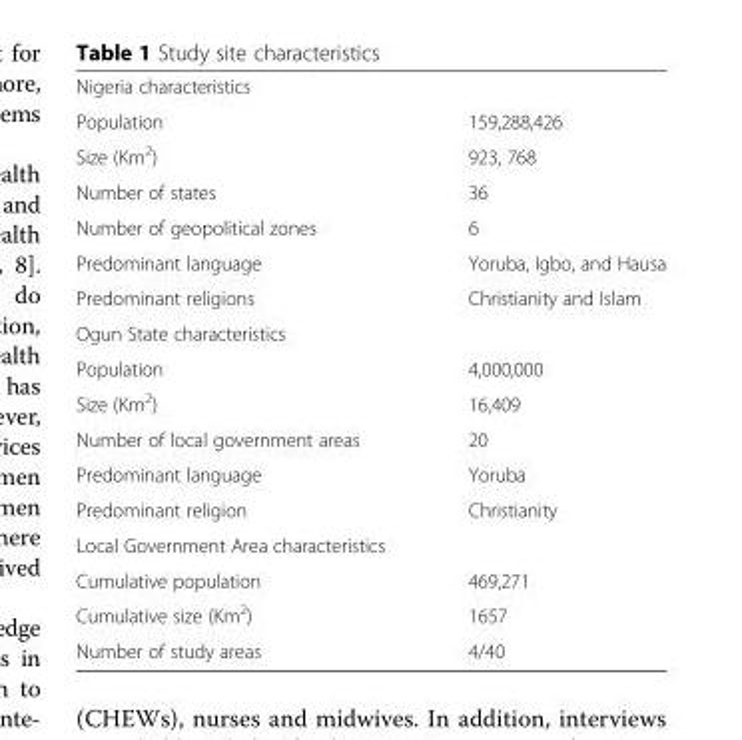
<table><tbody><tr><td colspan="2">Nigeria characteristics</td></tr><tr><td>Population</td><td>159,288,426</td></tr><tr><td>Size (Km<sup>2</sup>)</td><td>923, 768</td></tr><tr><td>Number of states</td><td>36</td></tr><tr><td>Number of geopolitical zones</td><td>6</td></tr><tr><td>Predominant language</td><td>Yoruba, Igbo, and Hausa</td></tr><tr><td>Predominant religions</td><td>Christianity and Islam</td></tr><tr><td colspan="2">Ogun State characteristics</td></tr><tr><td>Population</td><td>4,000,000</td></tr><tr><td>Size (Km<sup>2</sup>)</td><td>16,409</td></tr><tr><td>Number of local government areas</td><td>20</td></tr><tr><td>Predominant language</td><td>Yoruba</td></tr><tr><td>Predominant religion</td><td>Christianity</td></tr><tr><td colspan="2">Local Government Area characteristics</td></tr><tr><td>Cumulative population</td><td>469,271</td></tr><tr><td>Cumulative size (Km<sup>2</sup>)</td><td>1657</td></tr><tr><td>Number of study areas</td><td>4/40</td></tr></tbody></table>